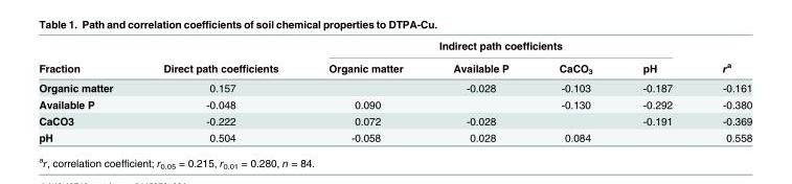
<table><thead><tr><td rowspan="2">Fraction</td><td rowspan="2">Direct path coefficients</td><td colspan="4">Indirect path coefficients</td><td rowspan="2">r<sup>a</sup></td></tr><tr><td>Organic matter</td><td>Available P</td><td>CaCO<sub>3</sub></td><td>pH</td></tr></thead><tbody><tr><td>Organic matter</td><td>0.157</td><td></td><td>-0.028</td><td>-0.103</td><td>-0.187</td><td>-0.161</td></tr><tr><td>Available P</td><td>-0.048</td><td>0.090</td><td></td><td>-0.130</td><td>-0.292</td><td>-0.380</td></tr><tr><td>CaCO3</td><td>-0.222</td><td>0.072</td><td>-0.028</td><td></td><td>-0.191</td><td>-0.369</td></tr><tr><td>pH</td><td>0.504</td><td>-0.058</td><td>0.028</td><td>0.084</td><td></td><td>0.558</td></tr></tbody></table>